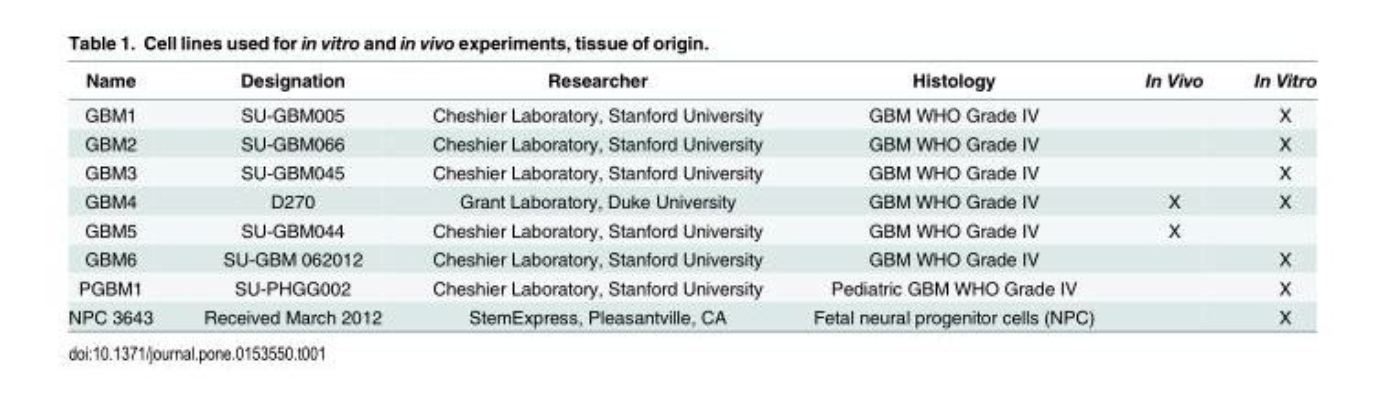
<table><thead><tr><td>Name</td><td>Designation</td><td>Researcher</td><td>Histology</td><td>In Vivo</td><td>In Vitro</td></tr></thead><tbody><tr><td>GBM1</td><td>SU-GBM005</td><td>Cheshier Laboratory, Stanford University</td><td>GBM WHO Grade IV</td><td></td><td>X</td></tr><tr><td>GBM2</td><td>SU-GBM066</td><td>Cheshier Laboratory, Stanford University</td><td>GBM WHO Grade IV</td><td></td><td>X</td></tr><tr><td>GBM3</td><td>SU-GBM045</td><td>Cheshier Laboratory, Stanford University</td><td>GBM WHO Grade IV</td><td></td><td>X</td></tr><tr><td>GBM4</td><td>D270</td><td>Grant Laboratory, Duke University</td><td>GBM WHO Grade IV</td><td>X</td><td>X</td></tr><tr><td>GBM5</td><td>SU-GBM044</td><td>Cheshier Laboratory, Stanford University</td><td>GBM WHO Grade IV</td><td>X</td><td></td></tr><tr><td>GBM6</td><td>SU-GBM 062012</td><td>Cheshier Laboratory, Stanford University</td><td>GBM WHO Grade IV</td><td></td><td>X</td></tr><tr><td>PGBM1</td><td>SU-PHGG002</td><td>Cheshier Laboratory, Stanford University</td><td>Pediatric GBM WHO Grade IV</td><td></td><td>X</td></tr><tr><td>NPC 3643</td><td>Received March 2012</td><td>StemExpress, Pleasantville, CA</td><td>Fetal neural progenitor cells (NPC)</td><td></td><td>X</td></tr></tbody></table>